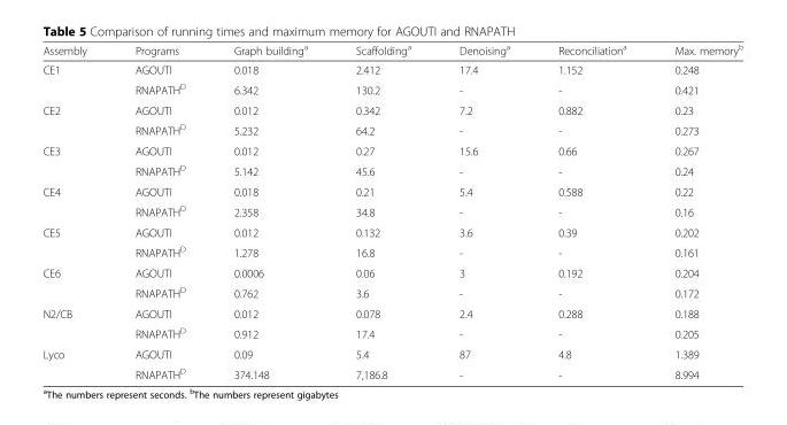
<table><thead><tr><td>Assembly</td><td>Programs</td><td>Graph building<sup>a</sup></td><td>Scaffolding<sup>a</sup></td><td>Denoising<sup>a</sup></td><td>Reconciliation<sup>a</sup></td><td>Max. memory<sup>b</sup></td></tr></thead><tbody><tr><td rowspan="2">CE1</td><td>AGOUTI</td><td>0.018</td><td>2.412</td><td>17.4</td><td>1.152</td><td>0.248</td></tr><tr><td>RNAPATH<sup>D</sup></td><td>6.342</td><td>130.2</td><td>-</td><td>-</td><td>0.421</td></tr><tr><td rowspan="2">CE2</td><td>AGOUTI</td><td>0.012</td><td>0.342</td><td>7.2</td><td>0.882</td><td>0.23</td></tr><tr><td>RNAPATH<sup>D</sup></td><td>5.232</td><td>64.2</td><td>-</td><td>-</td><td>0.273</td></tr><tr><td rowspan="2">CE3</td><td>AGOUTI</td><td>0.012</td><td>0.27</td><td>15.6</td><td>0.66</td><td>0.267</td></tr><tr><td>RNAPATH<sup>D</sup></td><td>5.142</td><td>45.6</td><td>-</td><td>-</td><td>0.24</td></tr><tr><td rowspan="2">CE4</td><td>AGOUTI</td><td>0.018</td><td>0.21</td><td>5.4</td><td>0.588</td><td>0.22</td></tr><tr><td>RNAPATH<sup>D</sup></td><td>2.358</td><td>34.8</td><td>-</td><td>-</td><td>0.16</td></tr><tr><td rowspan="2">CE5</td><td>AGOUTI</td><td>0.012</td><td>0.132</td><td>3.6</td><td>0.39</td><td>0.202</td></tr><tr><td>RNAPATH<sup>D</sup></td><td>1.278</td><td>16.8</td><td>-</td><td>-</td><td>0.161</td></tr><tr><td rowspan="2">CE6</td><td>AGOUTI</td><td>0.0006</td><td>0.06</td><td>3</td><td>0.192</td><td>0.204</td></tr><tr><td>RNAPATH<sup>D</sup></td><td>0.762</td><td>3.6</td><td>-</td><td>-</td><td>0.172</td></tr><tr><td rowspan="2">N2/CB</td><td>AGOUTI</td><td>0.012</td><td>0.078</td><td>2.4</td><td>0.288</td><td>0.188</td></tr><tr><td>RNAPATH<sup>D</sup></td><td>0.912</td><td>17.4</td><td>-</td><td>-</td><td>0.205</td></tr><tr><td rowspan="2">Lyco</td><td>AGOUTI</td><td>0.09</td><td>5.4</td><td>87</td><td>4.8</td><td>1.389</td></tr><tr><td>RNAPATH<sup>D</sup></td><td>374.148</td><td>7,186.8</td><td>-</td><td>-</td><td>8.994</td></tr></tbody></table>